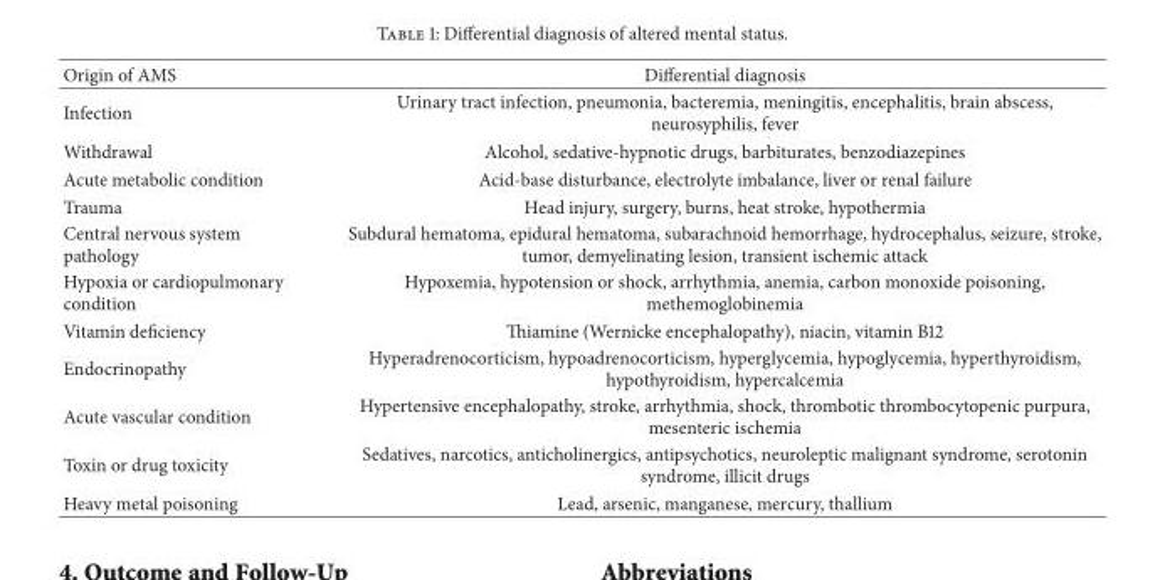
<table><thead><tr><td>Origin of AMS</td><td>Differential diagnosis</td></tr></thead><tbody><tr><td>Infection</td><td>Urinary tract infection, pneumonia, bacteremia, meningitis, encephalitis, brain abscess, neurosyphilis, fever</td></tr><tr><td>Withdrawal</td><td>Alcohol, sedative-hypnotic drugs, barbiturates, benzodiazepines</td></tr><tr><td>Acute metabolic condition</td><td>Acid-base disturbance, electrolyte imbalance, liver or renal failure</td></tr><tr><td>Trauma</td><td>Head injury, surgery, burns, heat stroke, hypothermia</td></tr><tr><td>Central nervous system pathology</td><td>Subdural hematoma, epidural hematoma, subarachnoid hemorrhage, hydrocephalus, seizure, stroke, tumor, demyelinating lesion, transient ischemic attack</td></tr><tr><td>Hypoxia or cardiopulmonary condition</td><td>Hypoxemia, hypotension or shock, arrhythmia, anemia, carbon monoxide poisoning, methemoglobinemia</td></tr><tr><td>Vitamin deficiency</td><td>Thiamine (Wernicke encephalopathy), niacin, vitamin B12</td></tr><tr><td>Endocrinopathy</td><td>Hyperadrenocorticism, hypoadrenocorticism, hyperglycemia, hypoglycemia, hyperthyroidism, hypothyroidism, hypercalcemia</td></tr><tr><td>Acute vascular condition</td><td>Hypertensive encephalopathy, stroke, arrhythmia, shock, thrombotic thrombocytopenic purpura, mesenteric ischemia</td></tr><tr><td>Toxin or drug toxicity</td><td>Sedatives, narcotics, anticholinergics, antipsychotics, neuroleptic malignant syndrome, serotonin syndrome, illicit drugs</td></tr><tr><td>Heavy metal poisoning</td><td>Lead, arsenic, manganese, mercury, thallium</td></tr></tbody></table>